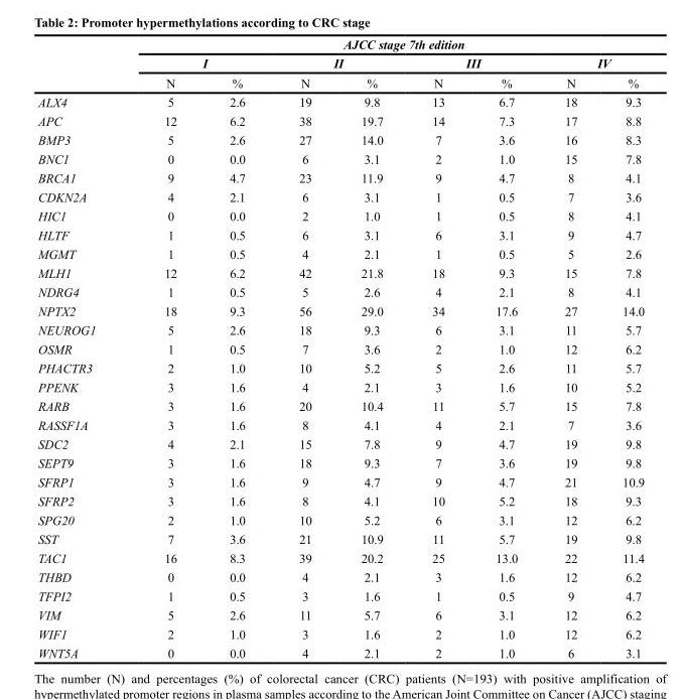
<table><thead><tr><td rowspan="3"></td><td colspan="8">AJCC stage 7<sup>th</sup> edition</td></tr><tr><td colspan="2">I</td><td colspan="2">II</td><td colspan="2">III</td><td colspan="2">IV</td></tr><tr><td>N</td><td>%</td><td>N</td><td>%</td><td>N</td><td>%</td><td>N</td><td>%</td></tr></thead><tbody><tr><td>ALX4</td><td>5</td><td>2.6</td><td>19</td><td>9.8</td><td>13</td><td>6.7</td><td>18</td><td>9.3</td></tr><tr><td>APC</td><td>12</td><td>6.2</td><td>38</td><td>19.7</td><td>14</td><td>7.3</td><td>17</td><td>8.8</td></tr><tr><td>BMP3</td><td>5</td><td>2.6</td><td>27</td><td>14.0</td><td>7</td><td>3.6</td><td>16</td><td>8.3</td></tr><tr><td>BNC1</td><td>0</td><td>0.0</td><td>6</td><td>3.1</td><td>2</td><td>1.0</td><td>15</td><td>7.8</td></tr><tr><td>BRCA1</td><td>9</td><td>4.7</td><td>23</td><td>11.9</td><td>9</td><td>4.7</td><td>8</td><td>4.1</td></tr><tr><td>CDKN2A</td><td>4</td><td>2.1</td><td>6</td><td>3.1</td><td>1</td><td>0.5</td><td>7</td><td>3.6</td></tr><tr><td>HIC1</td><td>0</td><td>0.0</td><td>2</td><td>1.0</td><td>1</td><td>0.5</td><td>8</td><td>4.1</td></tr><tr><td>HLTF</td><td>1</td><td>0.5</td><td>6</td><td>3.1</td><td>6</td><td>3.1</td><td>9</td><td>4.7</td></tr><tr><td>MGMT</td><td>1</td><td>0.5</td><td>4</td><td>2.1</td><td>1</td><td>0.5</td><td>5</td><td>2.6</td></tr><tr><td>MLH1</td><td>12</td><td>6.2</td><td>42</td><td>21.8</td><td>18</td><td>9.3</td><td>15</td><td>7.8</td></tr><tr><td>NDRG4</td><td>1</td><td>0.5</td><td>5</td><td>2.6</td><td>4</td><td>2.1</td><td>8</td><td>4.1</td></tr><tr><td>NPTX2</td><td>18</td><td>9.3</td><td>56</td><td>29.0</td><td>34</td><td>17.6</td><td>27</td><td>14.0</td></tr><tr><td>NEUROG1</td><td>5</td><td>2.6</td><td>18</td><td>9.3</td><td>6</td><td>3.1</td><td>11</td><td>5.7</td></tr><tr><td>OSMR</td><td>1</td><td>0.5</td><td>7</td><td>3.6</td><td>2</td><td>1.0</td><td>12</td><td>6.2</td></tr><tr><td>PHACTR3</td><td>2</td><td>1.0</td><td>10</td><td>5.2</td><td>5</td><td>2.6</td><td>11</td><td>5.7</td></tr><tr><td>PPENK</td><td>3</td><td>1.6</td><td>4</td><td>2.1</td><td>3</td><td>1.6</td><td>10</td><td>5.2</td></tr><tr><td>RARB</td><td>3</td><td>1.6</td><td>20</td><td>10.4</td><td>11</td><td>5.7</td><td>15</td><td>7.8</td></tr><tr><td>RASSF1A</td><td>3</td><td>1.6</td><td>8</td><td>4.1</td><td>4</td><td>2.1</td><td>7</td><td>3.6</td></tr><tr><td>SDC2</td><td>4</td><td>2.1</td><td>15</td><td>7.8</td><td>9</td><td>4.7</td><td>19</td><td>9.8</td></tr><tr><td>SEPT9</td><td>3</td><td>1.6</td><td>18</td><td>9.3</td><td>7</td><td>3.6</td><td>19</td><td>9.8</td></tr><tr><td>SFRP1</td><td>3</td><td>1.6</td><td>9</td><td>4.7</td><td>9</td><td>4.7</td><td>21</td><td>10.9</td></tr><tr><td>SFRP2</td><td>3</td><td>1.6</td><td>8</td><td>4.1</td><td>10</td><td>5.2</td><td>18</td><td>9.3</td></tr><tr><td>SPG20</td><td>2</td><td>1.0</td><td>10</td><td>5.2</td><td>6</td><td>3.1</td><td>12</td><td>6.2</td></tr><tr><td>SST</td><td>7</td><td>3.6</td><td>21</td><td>10.9</td><td>11</td><td>5.7</td><td>19</td><td>9.8</td></tr><tr><td>TAC1</td><td>16</td><td>8.3</td><td>39</td><td>20.2</td><td>25</td><td>13.0</td><td>22</td><td>11.4</td></tr><tr><td>THBD</td><td>0</td><td>0.0</td><td>4</td><td>2.1</td><td>3</td><td>1.6</td><td>12</td><td>6.2</td></tr><tr><td>TFPI2</td><td>1</td><td>0.5</td><td>3</td><td>1.6</td><td>1</td><td>0.5</td><td>9</td><td>4.7</td></tr><tr><td>VIM</td><td>5</td><td>2.6</td><td>11</td><td>5.7</td><td>6</td><td>3.1</td><td>12</td><td>6.2</td></tr><tr><td>WIF1</td><td>2</td><td>1.0</td><td>3</td><td>1.6</td><td>2</td><td>1.0</td><td>12</td><td>6.2</td></tr><tr><td>WNT5A</td><td>0</td><td>0.0</td><td>4</td><td>2.1</td><td>2</td><td>1.0</td><td>6</td><td>3.1</td></tr></tbody></table>